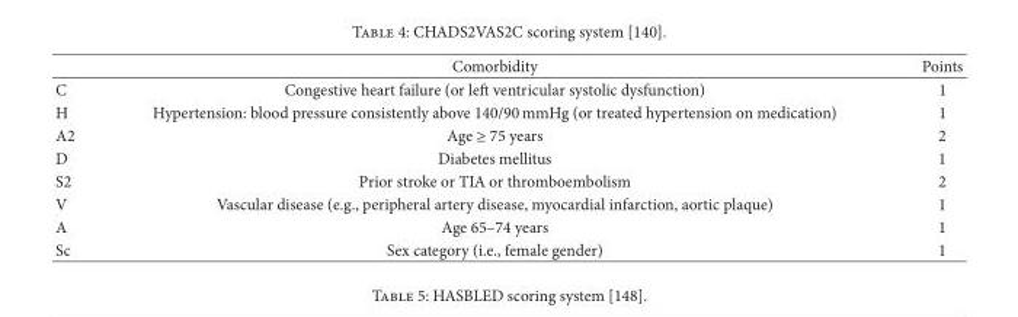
<table><thead><tr><td></td><td>Comorbidity</td><td>Points</td></tr></thead><tbody><tr><td>C</td><td>Congestive heart failure (or le ventricular systolic dysfunction)</td><td>1</td></tr><tr><td>H</td><td>Hypertension: blood pressure consistently above 140/90 mmHg (or treated hypertension on medication)</td><td>1</td></tr><tr><td>A2</td><td>Age ≥ 75 years</td><td>2</td></tr><tr><td>D</td><td>Diabetes mellitus</td><td>1</td></tr><tr><td>S2</td><td>Prior stroke or TIA or thromboembolism</td><td>2</td></tr><tr><td>V</td><td>Vascular disease (e.g., peripheral artery disease, myocardial infarction, aortic plaque)</td><td>1</td></tr><tr><td>A</td><td>Age 65–74 years</td><td>1</td></tr><tr><td>Sc</td><td>Sex category (i.e., female gender)</td><td>1</td></tr></tbody></table>